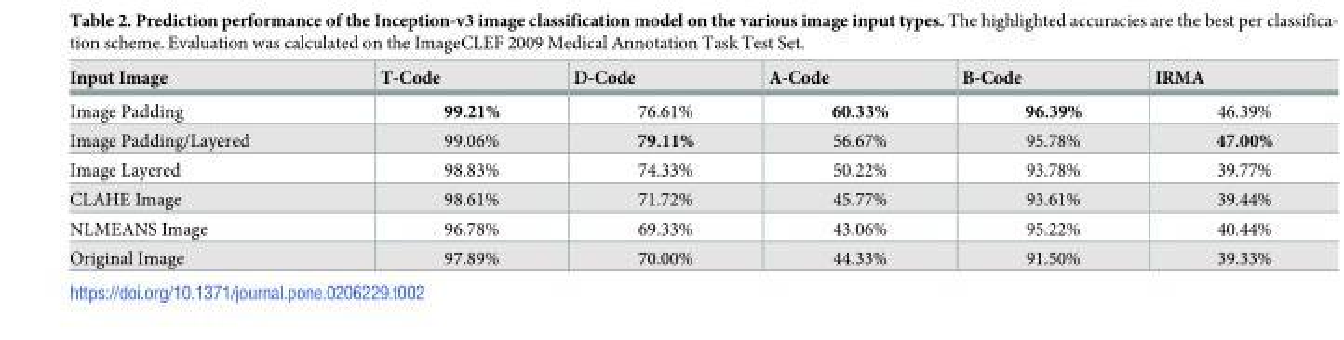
<table><thead><tr><td>Input Image</td><td>T-Code</td><td>D-Code</td><td>A-Code</td><td>B-Code</td><td>IRMA</td></tr></thead><tbody><tr><td>Image Padding</td><td>99.21%</td><td>76.61%</td><td>60.33%</td><td>96.39%</td><td>46.39%</td></tr><tr><td>Image Padding/Layered</td><td>99.06%</td><td>79.11%</td><td>56.67%</td><td>95.78%</td><td>47.00%</td></tr><tr><td>Image Layered</td><td>98.83%</td><td>74.33%</td><td>50.22%</td><td>93.78%</td><td>39.77%</td></tr><tr><td>CLAHE Image</td><td>98.61%</td><td>71.72%</td><td>45.77%</td><td>93.61%</td><td>39.44%</td></tr><tr><td>NLMEANS Image</td><td>96.78%</td><td>69.33%</td><td>43.06%</td><td>95.22%</td><td>40.44%</td></tr><tr><td>Original Image</td><td>97.89%</td><td>70.00%</td><td>44.33%</td><td>91.50%</td><td>39.33%</td></tr></tbody></table>